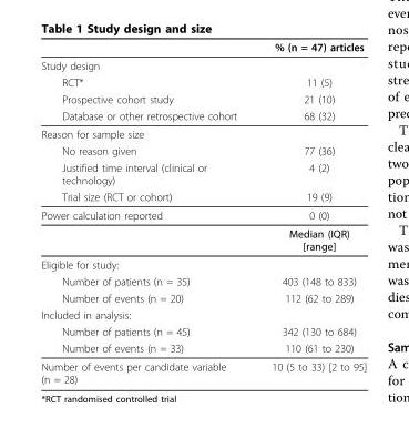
<table><thead><tr><td></td><td>% (n = 47) articles</td></tr></thead><tbody><tr><td colspan="2">Study design</td></tr><tr><td>RCT*</td><td>11 (5)</td></tr><tr><td>Prospective cohort study</td><td>21 (10)</td></tr><tr><td>Database or other retrospective cohort</td><td>68 (32)</td></tr><tr><td colspan="2">Reason for sample size</td></tr><tr><td>No reason given</td><td>77 (36)</td></tr><tr><td>Justified time interval (clinical or technology)</td><td>4 (2)</td></tr><tr><td>Trial size (RCT or cohort)</td><td>19 (9)</td></tr><tr><td rowspan="2">Power calculation reported</td><td>0 (0)</td></tr><tr><td>Median (IQR) [range]</td></tr><tr><td colspan="2">Eligible for study:</td></tr><tr><td>Number of patients (n = 35)</td><td>403 (148 to 833)</td></tr><tr><td>Number of events (n = 20)</td><td>112 (62 to 289)</td></tr><tr><td colspan="2">Included in analysis:</td></tr><tr><td>Number of patients (n = 45)</td><td>342 (130 to 684)</td></tr><tr><td>Number of events (n = 33)</td><td>110 (61 to 230)</td></tr><tr><td>Number of events per candidate variable (n = 28)</td><td>10 (5 to 33) [2 to 95]</td></tr></tbody></table>